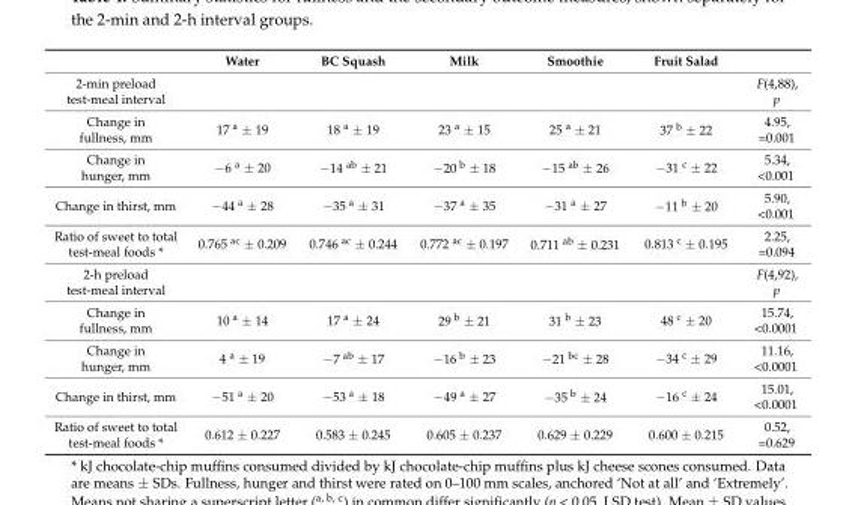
<table><thead><tr><td></td><td>Water</td><td>BC Squash</td><td>Milk</td><td>Smoothie</td><td>Fruit Salad</td><td></td></tr></thead><tbody><tr><td>2-min preload test-meal interval</td><td></td><td></td><td></td><td></td><td></td><td>F(4,88), p</td></tr><tr><td>Change in fullness, mm</td><td>17 <sup>a</sup> ± 19</td><td>18 <sup>a</sup> ± 19</td><td>23 <sup>a</sup> ± 15</td><td>25 <sup>a</sup> ± 21</td><td>37 <sup>b</sup> ± 22</td><td>4.95, =0.001</td></tr><tr><td>Change in hunger, mm</td><td>−6 <sup>a</sup> ± 20</td><td>−14 <sup>ab</sup> ± 21</td><td>−20 <sup>b</sup> ± 18</td><td>−15 <sup>ab</sup> ± 26</td><td>−31 <sup>c</sup> ± 22</td><td>5.34, &lt;0.001</td></tr><tr><td>Change in thirst, mm</td><td>−44 <sup>a</sup> ± 28</td><td>−35 <sup>a</sup> ± 31</td><td>−37 <sup>a</sup> ± 35</td><td>−31 <sup>a</sup> ± 27</td><td>−11 <sup>b</sup> ± 20</td><td>5.90, &lt;0.001</td></tr><tr><td>Ratio of sweet to total test-meal foods *</td><td>0.765 <sup>ac</sup> ± 0.209</td><td>0.746 <sup>ac</sup> ± 0.244</td><td>0.772 <sup>ac</sup> ± 0.197</td><td>0.711 <sup>ab</sup> ± 0.231</td><td>0.813 <sup>c</sup> ± 0.195</td><td>2.25, =0.094</td></tr><tr><td>2-h preload test-meal interval</td><td></td><td></td><td></td><td></td><td></td><td>F(4,92), p</td></tr><tr><td>Change in fullness, mm</td><td>10 <sup>a</sup> ± 14</td><td>17 <sup>a</sup> ± 24</td><td>29 <sup>b</sup> ± 21</td><td>31 <sup>b</sup> ± 23</td><td>48 <sup>c</sup> ± 20</td><td>15.74, &lt;0.0001</td></tr><tr><td>Change in hunger, mm</td><td>4 <sup>a</sup> ± 19</td><td>−7 <sup>ab</sup> ± 17</td><td>−16 <sup>b</sup> ± 23</td><td>−21 <sup>bc</sup> ± 28</td><td>−34 <sup>c</sup> ± 29</td><td>11.16, &lt;0.0001</td></tr><tr><td>Change in thirst, mm</td><td>−51 <sup>a</sup> ± 20</td><td>−53 <sup>a</sup> ± 18</td><td>−49 <sup>a</sup> ± 27</td><td>−35 <sup>b</sup> ± 24</td><td>−16 <sup>c</sup> ± 24</td><td>15.01, &lt;0.0001</td></tr><tr><td>Ratio of sweet to total test-meal foods *</td><td>0.612 ± 0.227</td><td>0.583 ± 0.245</td><td>0.605 ± 0.237</td><td>0.629 ± 0.229</td><td>0.600 ± 0.215</td><td>0.52, =0.629</td></tr></tbody></table>